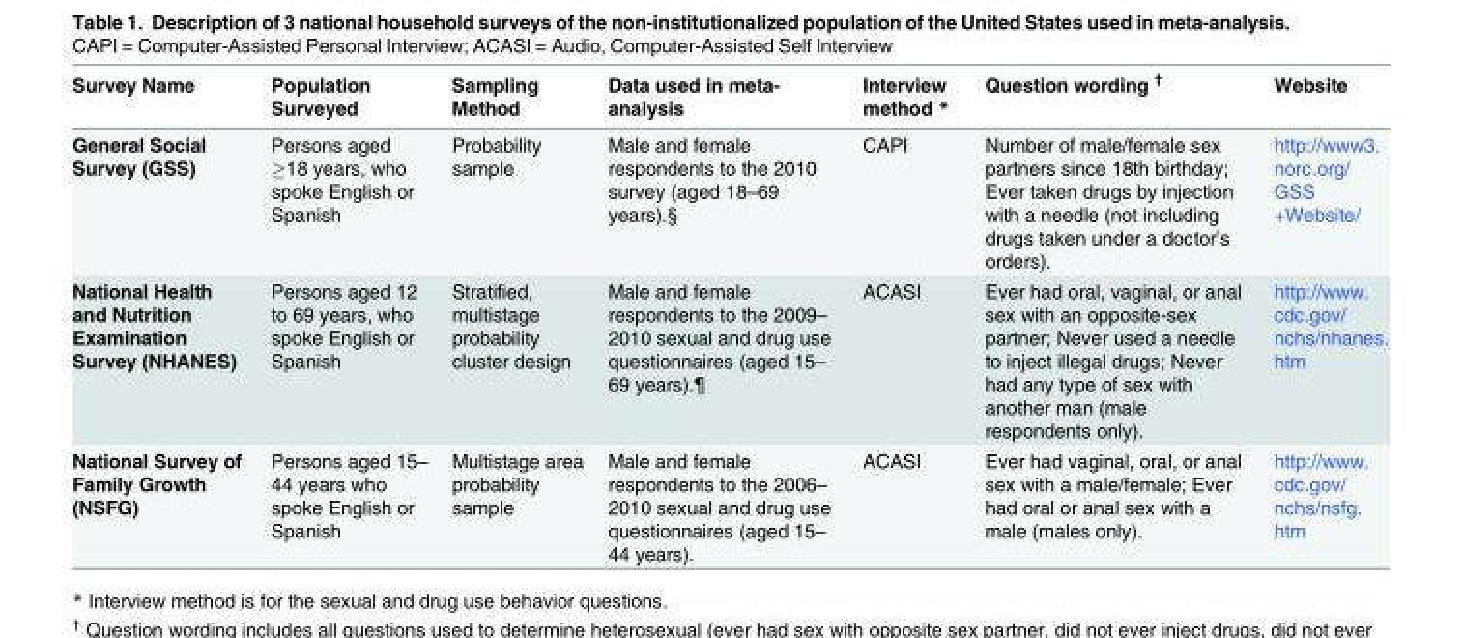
<table><thead><tr><td>Survey Name</td><td>Population Surveyed</td><td>Sampling Method</td><td>Data used in meta- analysis</td><td>Interview method *</td><td>Question wording <sup>†</sup></td><td>Website</td></tr></thead><tbody><tr><td>General Social Survey (GSS)</td><td>Persons aged ≥18 years, who spoke English or Spanish</td><td>Probability sample</td><td>Male and female respondents to the 2010 survey (aged 18–69 years).§</td><td>CAPI</td><td>Number of male/female sex partners since 18th birthday; Ever taken drugs by injection with a needle (not including drugs taken under a doctor’s orders).</td><td>http://www3. norc.org/ GSS +Website/</td></tr><tr><td>National Health and Nutrition Examination Survey (NHANES)</td><td>Persons aged 12 to 69 years, who spoke English or Spanish</td><td>Stratified, multistage probability cluster design</td><td>Male and female respondents to the 2009– 2010 sexual and drug use questionnaires (aged 15– 69 years).¶</td><td>ACASI</td><td>Ever had oral, vaginal, or anal sex with an opposite-sex partner; Never used a needle to inject illegal drugs; Never had any type of sex with another man (male respondents only).</td><td>http://www. cdc.gov/ nchs/nhanes. htm</td></tr><tr><td>National Survey of Family Growth (NSFG)</td><td>Persons aged 15– 44 years who spoke English or Spanish</td><td>Multistage area probability sample</td><td>Male and female respondents to the 2006– 2010 sexual and drug use questionnaires (aged 15– 44 years).</td><td>ACASI</td><td>Ever had vaginal, oral, or anal sex with a male/female; Ever had oral or anal sex with a male (males only).</td><td>http://www. cdc.gov/ nchs/nsfg. htm</td></tr></tbody></table>